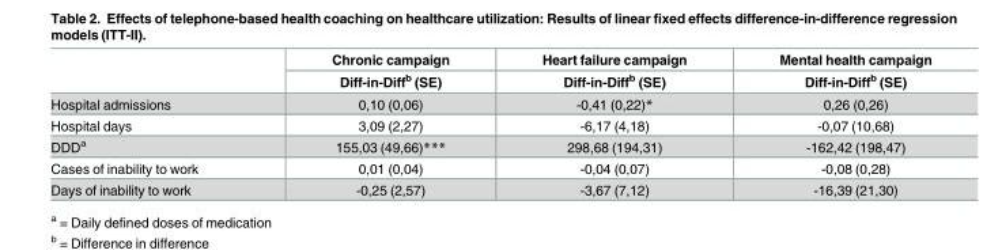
<table><thead><tr><td rowspan="2"></td><td rowspan="2">Chronic campaign Diff-in-Diff<sup>b</sup> (SE)</td><td rowspan="2">Heart failure campaign Diff-in-Diff<sup>b</sup> (SE)</td><td rowspan="2">Mental health campaign Diff-in-Diff<sup>b</sup> (SE)</td></tr><tr></tr></thead><tbody><tr><td>Hospital admissions</td><td>0,10 (0,06)</td><td>-0,41 (0,22)*</td><td>0,26 (0,26)</td></tr><tr><td>Hospital days</td><td>3,09 (2,27)</td><td>-6,17 (4,18)</td><td>-0,07 (10,68)</td></tr><tr><td>DDD<sup>a</sup></td><td>155,03 (49,66)***</td><td>298,68 (194,31)</td><td>-162,42 (198,47)</td></tr><tr><td>Cases of inability to work</td><td>0,01 (0,04)</td><td>-0,04 (0,07)</td><td>-0,08 (0,28)</td></tr><tr><td>Days of inability to work</td><td>-0,25 (2,57)</td><td>-3,67 (7,12)</td><td>-16,39 (21,30)</td></tr></tbody></table>